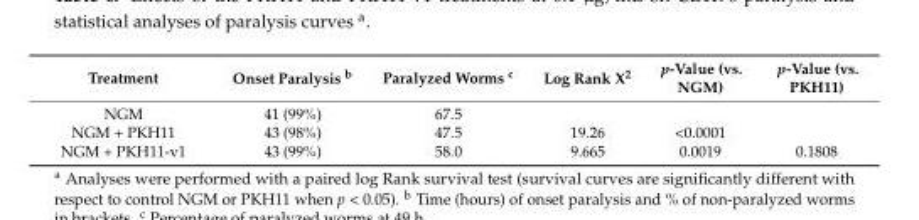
<table><thead><tr><td>Treatment</td><td>Onset Paralysis <sup>b</sup></td><td>Paralyzed Worms <sup>c</sup></td><td>Log Rank X<sup>2</sup></td><td>p-Value (vs. NGM)</td><td>p-Value (vs. PKH11)</td></tr></thead><tbody><tr><td>NGM</td><td>41 (99%)</td><td>67.5</td><td></td><td></td><td></td></tr><tr><td>NGM + PKH11</td><td>43 (98%)</td><td>47.5</td><td>19.26</td><td>&lt;0.0001</td><td></td></tr><tr><td>NGM + PKH11-v1</td><td>43 (99%)</td><td>58.0</td><td>9.665</td><td>0.0019</td><td>0.1808</td></tr></tbody></table>